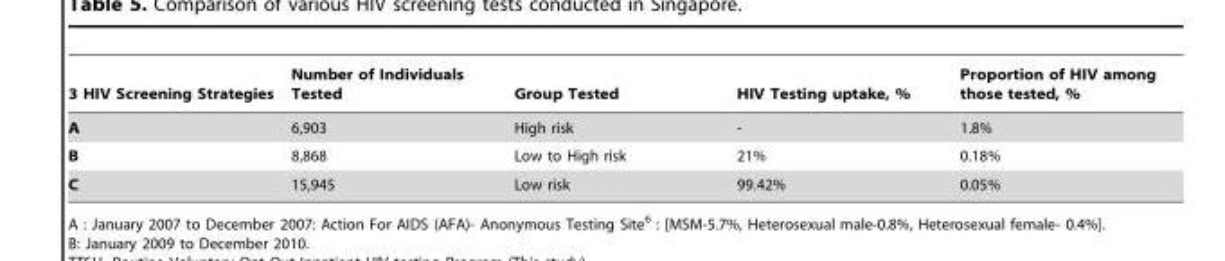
<table><thead><tr><td>3 HIV Screening Strategies</td><td>Number of Individuals Tested</td><td>Group Tested</td><td>HIV Testing uptake, %</td><td>Proportion of HIV among those tested, %</td></tr></thead><tbody><tr><td>A</td><td>6,903</td><td>High risk</td><td>-</td><td>1.8%</td></tr><tr><td>B</td><td>8,868</td><td>Low to High risk</td><td>21%</td><td>0.18%</td></tr><tr><td>C</td><td>15,945</td><td>Low risk</td><td>99.42%</td><td>0.05%</td></tr></tbody></table>